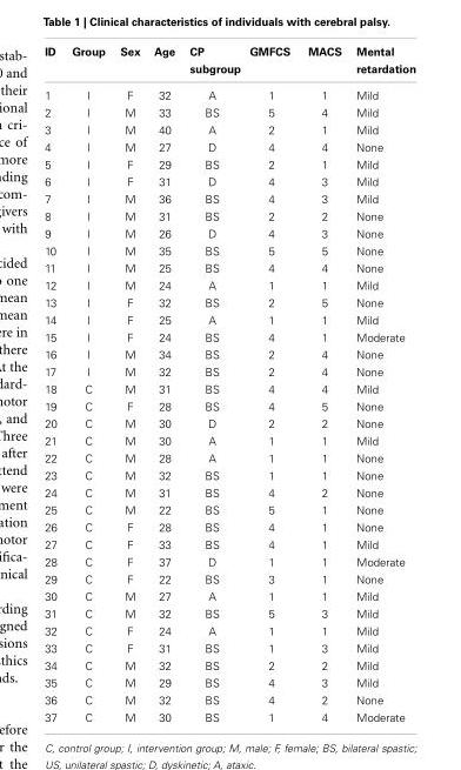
<table><thead><tr><td>ID</td><td>Group</td><td>Sex</td><td>Age</td><td>CP subgroup</td><td>GMFCS</td><td>MACS</td><td>Mental retardation</td></tr></thead><tbody><tr><td>1</td><td>I</td><td>F</td><td>32</td><td>A</td><td>1</td><td>1</td><td>Mild</td></tr><tr><td>2</td><td>I</td><td>M</td><td>33</td><td>BS</td><td>5</td><td>4</td><td>Mild</td></tr><tr><td>3</td><td>I</td><td>M</td><td>40</td><td>A</td><td>2</td><td>1</td><td>Mild</td></tr><tr><td>4</td><td>I</td><td>M</td><td>27</td><td>D</td><td>4</td><td>4</td><td>None</td></tr><tr><td>5</td><td>I</td><td>F</td><td>29</td><td>BS</td><td>2</td><td>1</td><td>Mild</td></tr><tr><td>6</td><td>I</td><td>F</td><td>31</td><td>D</td><td>4</td><td>3</td><td>Mild</td></tr><tr><td>7</td><td>I</td><td>M</td><td>36</td><td>BS</td><td>4</td><td>3</td><td>Mild</td></tr><tr><td>8</td><td>I</td><td>M</td><td>31</td><td>BS</td><td>2</td><td>2</td><td>None</td></tr><tr><td>9</td><td>I</td><td>M</td><td>26</td><td>D</td><td>4</td><td>3</td><td>None</td></tr><tr><td>10</td><td>I</td><td>M</td><td>35</td><td>BS</td><td>5</td><td>5</td><td>None</td></tr><tr><td>11</td><td>I</td><td>M</td><td>25</td><td>BS</td><td>4</td><td>4</td><td>None</td></tr><tr><td>12</td><td>I</td><td>M</td><td>24</td><td>A</td><td>1</td><td>1</td><td>Mild</td></tr><tr><td>13</td><td>I</td><td>F</td><td>32</td><td>BS</td><td>2</td><td>5</td><td>None</td></tr><tr><td>14</td><td>I</td><td>F</td><td>25</td><td>A</td><td>1</td><td>1</td><td>Mild</td></tr><tr><td>15</td><td>I</td><td>F</td><td>24</td><td>BS</td><td>4</td><td>1</td><td>Moderate</td></tr><tr><td>16</td><td>I</td><td>M</td><td>34</td><td>BS</td><td>2</td><td>4</td><td>None</td></tr><tr><td>17</td><td>I</td><td>M</td><td>32</td><td>BS</td><td>2</td><td>4</td><td>None</td></tr><tr><td>18</td><td>C</td><td>M</td><td>31</td><td>BS</td><td>4</td><td>4</td><td>Mild</td></tr><tr><td>19</td><td>C</td><td>F</td><td>28</td><td>BS</td><td>4</td><td>5</td><td>None</td></tr><tr><td>20</td><td>C</td><td>M</td><td>30</td><td>D</td><td>2</td><td>2</td><td>None</td></tr><tr><td>21</td><td>C</td><td>M</td><td>30</td><td>A</td><td>1</td><td>1</td><td>Mild</td></tr><tr><td>22</td><td>C</td><td>M</td><td>28</td><td>A</td><td>1</td><td>1</td><td>None</td></tr><tr><td>23</td><td>C</td><td>M</td><td>32</td><td>BS</td><td>1</td><td>1</td><td>None</td></tr><tr><td>24</td><td>C</td><td>M</td><td>31</td><td>BS</td><td>4</td><td>2</td><td>None</td></tr><tr><td>25</td><td>C</td><td>M</td><td>22</td><td>BS</td><td>5</td><td>1</td><td>None</td></tr><tr><td>26</td><td>C</td><td>F</td><td>28</td><td>BS</td><td>4</td><td>1</td><td>None</td></tr><tr><td>27</td><td>C</td><td>F</td><td>33</td><td>BS</td><td>4</td><td>1</td><td>Mild</td></tr><tr><td>28</td><td>C</td><td>F</td><td>37</td><td>D</td><td>1</td><td>1</td><td>Moderate</td></tr><tr><td>29</td><td>C</td><td>F</td><td>22</td><td>BS</td><td>3</td><td>1</td><td>None</td></tr><tr><td>30</td><td>C</td><td>M</td><td>27</td><td>A</td><td>1</td><td>1</td><td>Mild</td></tr><tr><td>31</td><td>C</td><td>M</td><td>32</td><td>BS</td><td>5</td><td>3</td><td>Mild</td></tr><tr><td>32</td><td>C</td><td>F</td><td>24</td><td>A</td><td>1</td><td>1</td><td>Mild</td></tr><tr><td>33</td><td>C</td><td>F</td><td>31</td><td>BS</td><td>1</td><td>3</td><td>Mild</td></tr><tr><td>34</td><td>C</td><td>M</td><td>32</td><td>BS</td><td>2</td><td>2</td><td>Mild</td></tr><tr><td>35</td><td>C</td><td>M</td><td>29</td><td>BS</td><td>4</td><td>3</td><td>Mild</td></tr><tr><td>36</td><td>C</td><td>M</td><td>32</td><td>BS</td><td>4</td><td>2</td><td>None</td></tr><tr><td>37</td><td>C</td><td>M</td><td>30</td><td>BS</td><td>1</td><td>4</td><td>Moderate</td></tr></tbody></table>